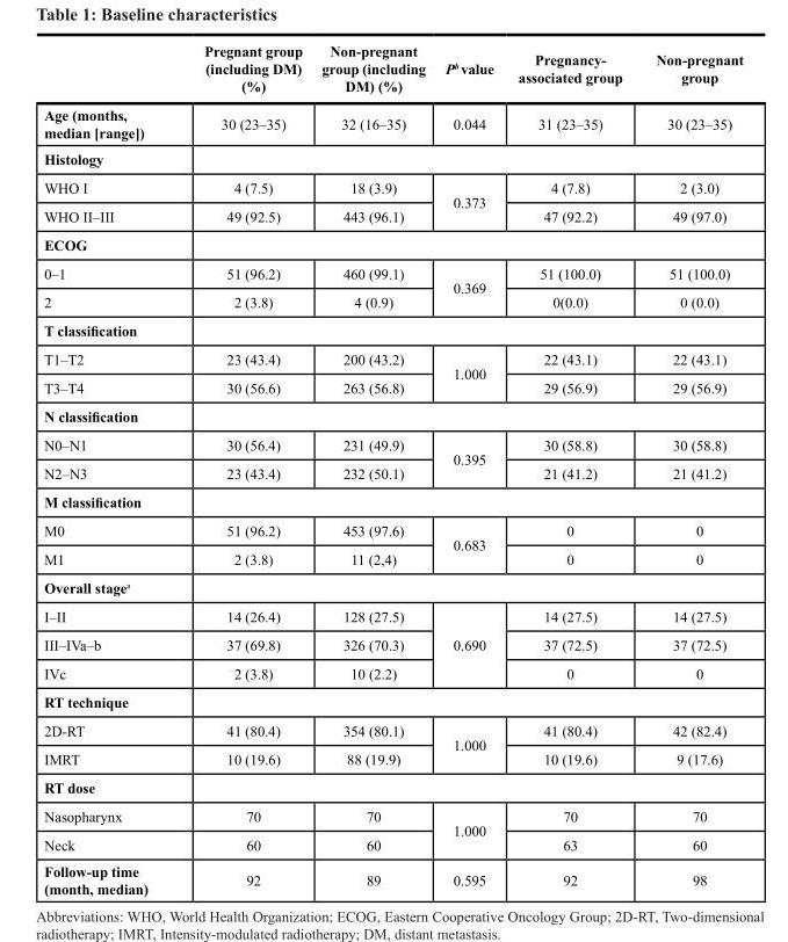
<table><thead><tr><td></td><td>Pregnant group (including DM) (%)</td><td>Non-pregnant group (including DM) (%)</td><td>P<sup>b</sup> value</td><td>Pregnancy- associated group</td><td>Non-pregnant group</td></tr></thead><tbody><tr><td>Age (months, median [range])</td><td>30 (23–35)</td><td>32 (16–35)</td><td>0.044</td><td>31 (23–35)</td><td>30 (23–35)</td></tr><tr><td colspan="6">Histology</td></tr><tr><td>WHO I</td><td>4 (7.5)</td><td>18 (3.9)</td><td rowspan="2">0.373</td><td>4 (7.8)</td><td>2 (3.0)</td></tr><tr><td>WHO II–III</td><td>49 (92.5)</td><td>443 (96.1)</td><td>47 (92.2)</td><td>49 (97.0)</td></tr><tr><td colspan="6">ECOG</td></tr><tr><td>0–1</td><td>51 (96.2)</td><td>460 (99.1)</td><td rowspan="2">0.369</td><td>51 (100.0)</td><td>51 (100.0)</td></tr><tr><td>2</td><td>2 (3.8)</td><td>4 (0.9)</td><td>0(0.0)</td><td>0 (0.0)</td></tr><tr><td colspan="6">T classification</td></tr><tr><td>T1–T2</td><td>23 (43.4)</td><td>200 (43.2)</td><td rowspan="2">1.000</td><td>22 (43.1)</td><td>22 (43.1)</td></tr><tr><td>T3–T4</td><td>30 (56.6)</td><td>263 (56.8)</td><td>29 (56.9)</td><td>29 (56.9)</td></tr><tr><td colspan="6">N classification</td></tr><tr><td>N0–N1</td><td>30 (56.4)</td><td>231 (49.9)</td><td rowspan="2">0.395</td><td>30 (58.8)</td><td>30 (58.8)</td></tr><tr><td>N2–N3</td><td>23 (43.4)</td><td>232 (50.1)</td><td>21 (41.2)</td><td>21 (41.2)</td></tr><tr><td colspan="6">M classification</td></tr><tr><td>M0</td><td>51 (96.2)</td><td>453 (97.6)</td><td rowspan="2">0.683</td><td>0</td><td>0</td></tr><tr><td>M1</td><td>2 (3.8)</td><td>11 (2,4)</td><td>0</td><td>0</td></tr><tr><td colspan="6">Overall stage<sup>a</sup></td></tr><tr><td>I–II</td><td>14 (26.4)</td><td>128 (27.5)</td><td rowspan="3">0.690</td><td>14 (27.5)</td><td>14 (27.5)</td></tr><tr><td>III–IVa–b</td><td>37 (69.8)</td><td>326 (70.3)</td><td>37 (72.5)</td><td>37 (72.5)</td></tr><tr><td>IVc</td><td>2 (3.8)</td><td>10 (2.2)</td><td>0</td><td>0</td></tr><tr><td colspan="6">RT technique</td></tr><tr><td>2D-RT</td><td>41 (80.4)</td><td>354 (80.1)</td><td rowspan="2">1.000</td><td>41 (80.4)</td><td>42 (82.4)</td></tr><tr><td>IMRT</td><td>10 (19.6)</td><td>88 (19.9)</td><td>10 (19.6)</td><td>9 (17.6)</td></tr><tr><td colspan="6">RT dose</td></tr><tr><td>Nasopharynx</td><td>70</td><td>70</td><td rowspan="2">1.000</td><td>70</td><td>70</td></tr><tr><td>Neck</td><td>60</td><td>60</td><td>63</td><td>60</td></tr><tr><td>Follow-up time (month, median)</td><td>92</td><td>89</td><td>0.595</td><td>92</td><td>98</td></tr></tbody></table>